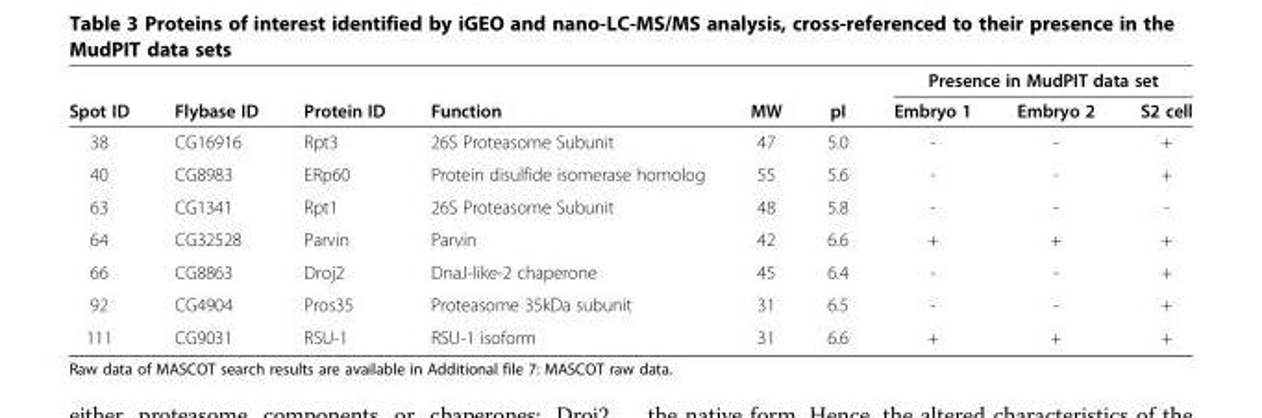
<table><thead><tr><td rowspan="2">Spot ID</td><td rowspan="2">Flybase ID</td><td rowspan="2">Protein ID</td><td rowspan="2">Function</td><td rowspan="2">MW</td><td rowspan="2">pI</td><td colspan="3">Presence in MudPIT data set</td></tr><tr><td>Embryo 1</td><td>Embryo 2</td><td>S2 cell</td></tr></thead><tbody><tr><td>38</td><td>CG16916</td><td>Rpt3</td><td>26S Proteasome Subunit</td><td>47</td><td>5.0</td><td>-</td><td>-</td><td>+</td></tr><tr><td>40</td><td>CG8983</td><td>ERp60</td><td>Protein disulfide isomerase homolog</td><td>55</td><td>5.6</td><td>-</td><td>-</td><td>+</td></tr><tr><td>63</td><td>CG1341</td><td>Rpt1</td><td>26S Proteasome Subunit</td><td>48</td><td>5.8</td><td>-</td><td>-</td><td>-</td></tr><tr><td>64</td><td>CG32528</td><td>Parvin</td><td>Parvin</td><td>42</td><td>6.6</td><td>+</td><td>+</td><td>+</td></tr><tr><td>66</td><td>CG8863</td><td>Droj2</td><td>DnaJ-like-2 chaperone</td><td>45</td><td>6.4</td><td>-</td><td>-</td><td>+</td></tr><tr><td>92</td><td>CG4904</td><td>Pros35</td><td>Proteasome 35kDa subunit</td><td>31</td><td>6.5</td><td>-</td><td>-</td><td>+</td></tr><tr><td>111</td><td>CG9031</td><td>RSU-1</td><td>RSU-1 isoform</td><td>31</td><td>6.6</td><td>+</td><td>+</td><td>+</td></tr></tbody></table>